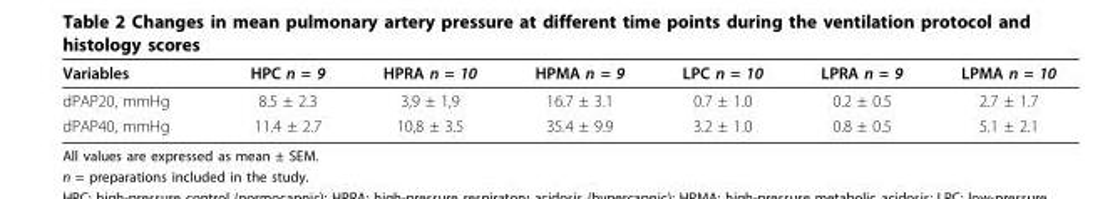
<table><thead><tr><td>Variables</td><td>HPC n = 9</td><td>HPRA n = 10</td><td>HPMA n = 9</td><td>LPC n = 10</td><td>LPRA n = 9</td><td>LPMA n = 10</td></tr></thead><tbody><tr><td>dPAP20, mmHg</td><td>8.5 ± 2.3</td><td>3,9 ± 1,9</td><td>16.7 ± 3.1</td><td>0.7 ± 1.0</td><td>0.2 ± 0.5</td><td>2.7 ± 1.7</td></tr><tr><td>dPAP40, mmHg</td><td>11.4 ± 2.7</td><td>10,8 ± 3.5</td><td>35.4 ± 9.9</td><td>3.2 ± 1.0</td><td>0.8 ± 0.5</td><td>5.1 ± 2.1</td></tr></tbody></table>